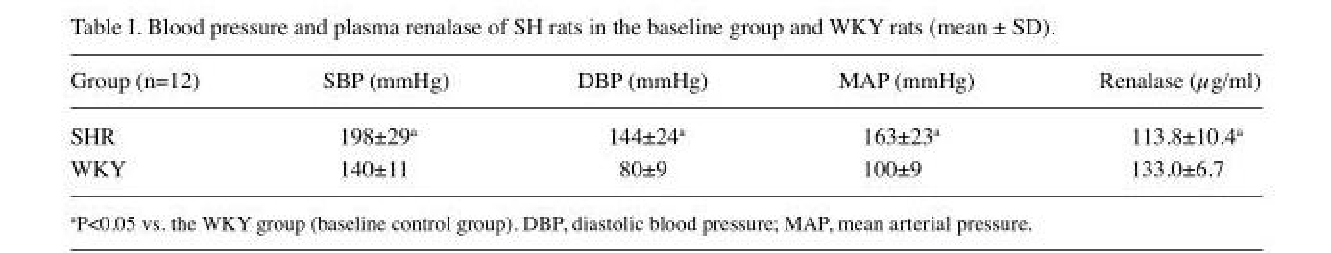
<table><thead><tr><td>Group (n=12)</td><td>SBP (mmHg)</td><td>DBP (mmHg)</td><td>MAP (mmHg)</td><td>Renalase (µg/ml)</td></tr></thead><tbody><tr><td>SHR</td><td>198±29<sup>a</sup></td><td>144±24<sup>a</sup></td><td>163±23<sup>a</sup></td><td>113.8±10.4<sup>a</sup></td></tr><tr><td>WKY</td><td>140±11</td><td>80±9</td><td>100±9</td><td>133.0±6.7</td></tr></tbody></table>